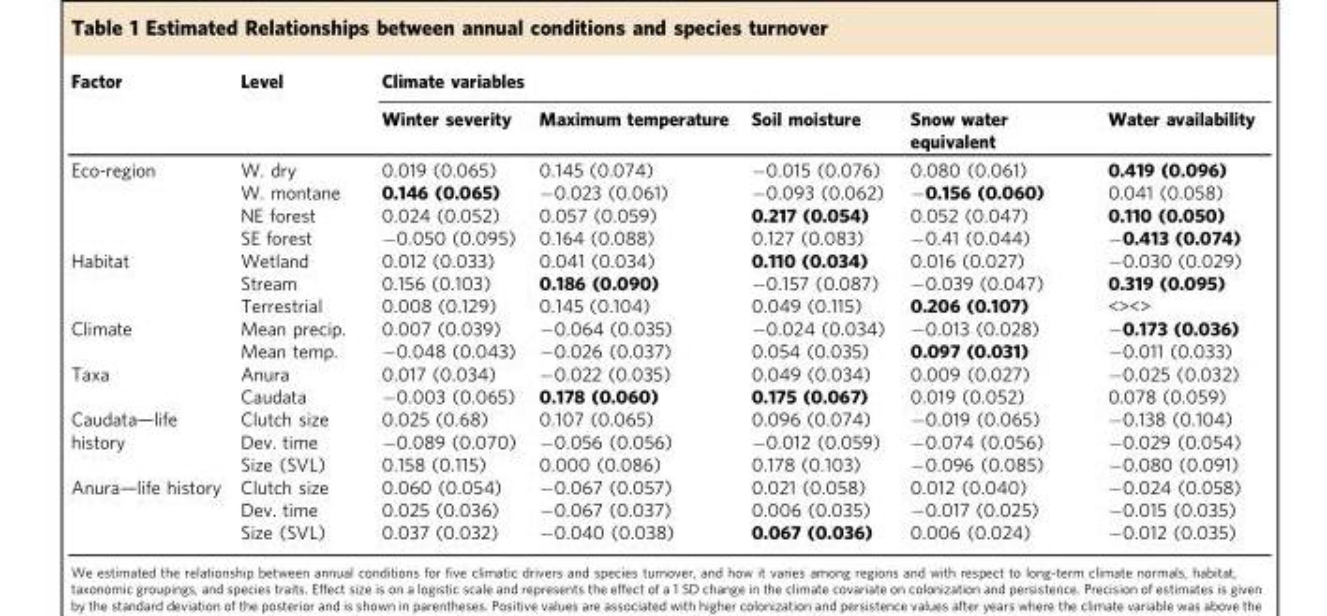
<table><thead><tr><td rowspan="2">Factor</td><td rowspan="2">Level</td><td colspan="5">Climate variables</td></tr><tr><td>Winter severity</td><td>Maximum temperature</td><td>Soil moisture</td><td>Snow water equivalent</td><td>Water availability</td></tr></thead><tbody><tr><td rowspan="4">Eco-region</td><td>W. dry</td><td>0.019 (0.065)</td><td>0.145 (0.074)</td><td>−0.015 (0.076)</td><td>0.080 (0.061)</td><td>0.419 (0.096)</td></tr><tr><td>W. montane</td><td>0.146 (0.065)</td><td>−0.023 (0.061)</td><td>−0.093 (0.062)</td><td>−0.156 (0.060)</td><td>0.041 (0.058)</td></tr><tr><td>NE forest</td><td>0.024 (0.052)</td><td>0.057 (0.059)</td><td>0.217 (0.054)</td><td>0.052 (0.047)</td><td>0.110 (0.050)</td></tr><tr><td>SE forest</td><td>−0.050 (0.095)</td><td>0.164 (0.088)</td><td>0.127 (0.083)</td><td>−0.41 (0.044)</td><td>−0.413 (0.074)</td></tr><tr><td rowspan="3">Habitat</td><td>Wetland</td><td>0.012 (0.033)</td><td>0.041 (0.034)</td><td>0.110 (0.034)</td><td>0.016 (0.027)</td><td>−0.030 (0.029)</td></tr><tr><td>Stream</td><td>0.156 (0.103)</td><td>0.186 (0.090)</td><td>−0.157 (0.087)</td><td>−0.039 (0.047)</td><td>0.319 (0.095)</td></tr><tr><td>Terrestrial</td><td>0.008 (0.129)</td><td>0.145 (0.104)</td><td>0.049 (0.115)</td><td>0.206 (0.107)</td><td>&lt;&gt;&lt;&gt;</td></tr><tr><td rowspan="2">Climate</td><td>Mean precip.</td><td>0.007 (0.039)</td><td>−0.064 (0.035)</td><td>−0.024 (0.034)</td><td>−0.013 (0.028)</td><td>−0.173 (0.036)</td></tr><tr><td>Mean temp.</td><td>−0.048 (0.043)</td><td>−0.026 (0.037)</td><td>0.054 (0.035)</td><td>0.097 (0.031)</td><td>−0.011 (0.033)</td></tr><tr><td rowspan="2">Taxa</td><td>Anura</td><td>0.017 (0.034)</td><td>−0.022 (0.035)</td><td>0.049 (0.034)</td><td>0.009 (0.027)</td><td>−0.025 (0.032)</td></tr><tr><td>Caudata</td><td>−0.003 (0.065)</td><td>0.178 (0.060)</td><td>0.175 (0.067)</td><td>0.019 (0.052)</td><td>0.078 (0.059)</td></tr><tr><td rowspan="3">Caudata—life history</td><td>Clutch size</td><td>0.025 (0.68)</td><td>0.107 (0.065)</td><td>0.096 (0.074)</td><td>−0.019 (0.065)</td><td>−0.138 (0.104)</td></tr><tr><td>Dev. time</td><td>−0.089 (0.070)</td><td>−0.056 (0.056)</td><td>−0.012 (0.059)</td><td>−0.074 (0.056)</td><td>−0.029 (0.054)</td></tr><tr><td>Size (SVL)</td><td>0.158 (0.115)</td><td>0.000 (0.086)</td><td>0.178 (0.103)</td><td>−0.096 (0.085)</td><td>−0.080 (0.091)</td></tr><tr><td rowspan="3">Anura—life history</td><td>Clutch size</td><td>0.060 (0.054)</td><td>−0.067 (0.057)</td><td>0.021 (0.058)</td><td>0.012 (0.040)</td><td>−0.024 (0.058)</td></tr><tr><td>Dev. time</td><td>0.025 (0.036)</td><td>−0.067 (0.037)</td><td>0.006 (0.035)</td><td>−0.017 (0.025)</td><td>−0.015 (0.035)</td></tr><tr><td>Size (SVL)</td><td>0.037 (0.032)</td><td>−0.040 (0.038)</td><td>0.067 (0.036)</td><td>0.006 (0.024)</td><td>−0.012 (0.035)</td></tr></tbody></table>